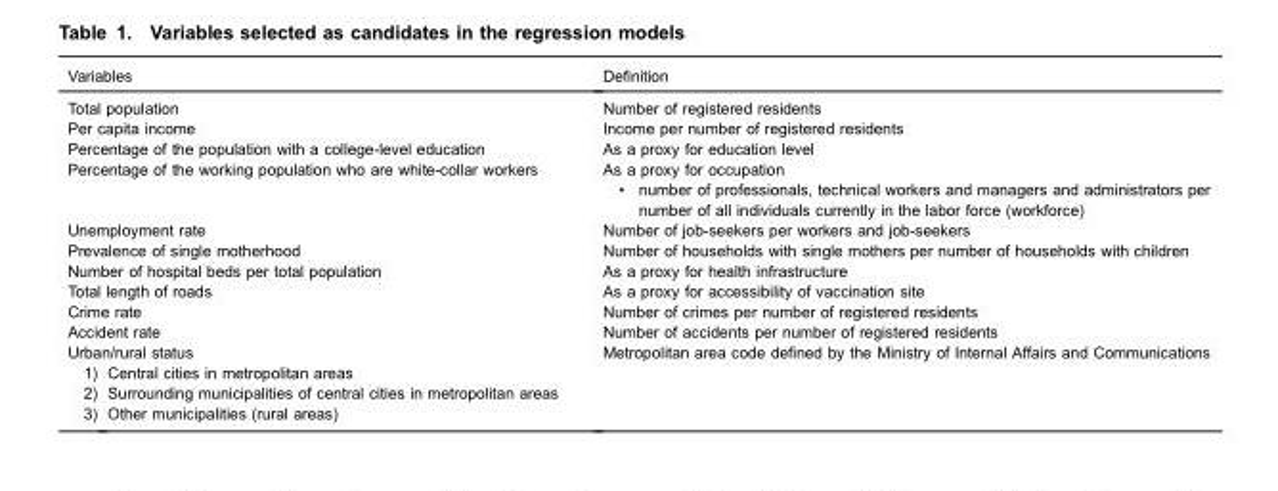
<table><thead><tr><td colspan="2">Variables</td><td colspan="2">Definition</td></tr></thead><tbody><tr><td colspan="2">Total population</td><td colspan="2">Number of registered residents</td></tr><tr><td colspan="2">Per capita income</td><td colspan="2">Income per number of registered residents</td></tr><tr><td colspan="2">Percentage of the population with a college-level education</td><td colspan="2">As a proxy for education level</td></tr><tr><td rowspan="2" colspan="2">Percentage of the working population who are white-collar workers</td><td colspan="2">As a proxy for occupation</td></tr><tr><td>•</td><td>number of professionals, technical workers and managers and administrators per number of all individuals currently in the labor force (workforce)</td></tr><tr><td colspan="2">Unemployment rate</td><td colspan="2">Number of job-seekers per workers and job-seekers</td></tr><tr><td colspan="2">Prevalence of single motherhood</td><td colspan="2">Number of households with single mothers per number of households with children</td></tr><tr><td colspan="2">Number of hospital beds per total population</td><td colspan="2">As a proxy for health infrastructure</td></tr><tr><td colspan="2">Total length of roads</td><td colspan="2">As a proxy for accessibility of vaccination site</td></tr><tr><td colspan="2">Crime rate</td><td colspan="2">Number of crimes per number of registered residents</td></tr><tr><td colspan="2">Accident rate</td><td colspan="2">Number of accidents per number of registered residents</td></tr><tr><td colspan="2">Urban/rural status</td><td rowspan="4" colspan="2">Metropolitan area code defined by the Ministry of Internal Affairs and Communications</td></tr><tr><td>1)</td><td>Central cities in metropolitan areas</td></tr><tr><td>2)</td><td>Surrounding municipalities of central cities in metropolitan areas</td></tr><tr><td>3)</td><td>Other municipalities (rural areas)</td></tr></tbody></table>